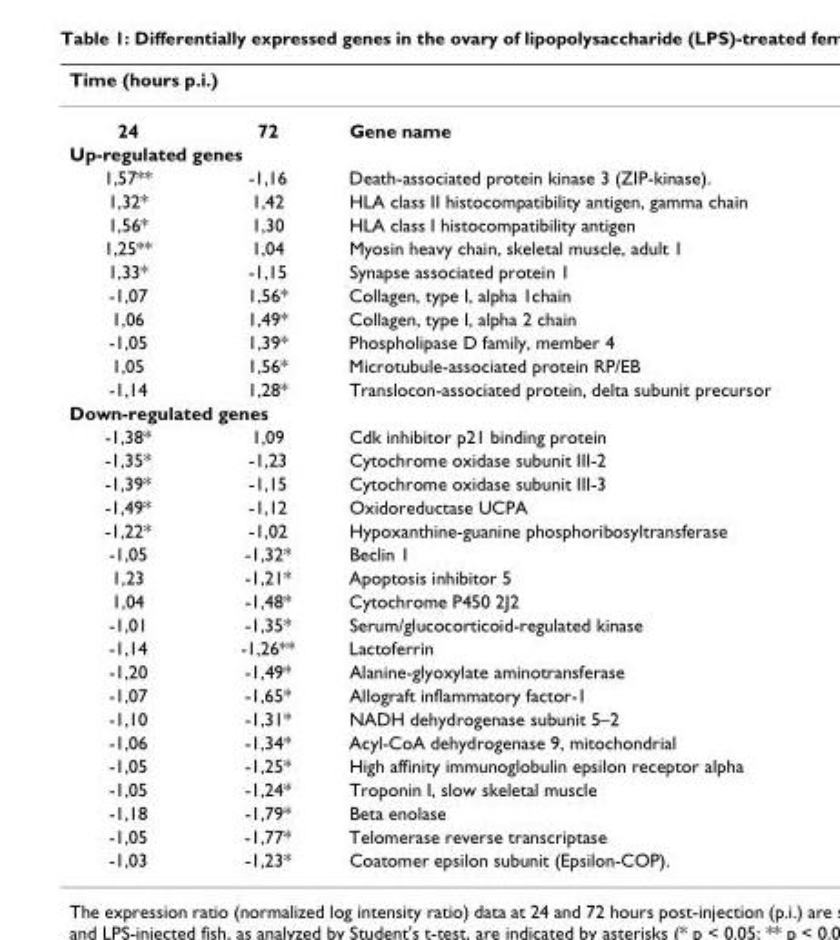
<table><thead><tr><td colspan="3">Time (hours p.i.)</td></tr><tr><td>24</td><td>72</td><td>Gene name</td></tr></thead><tbody><tr><td colspan="3">Up-regulated genes</td></tr><tr><td>1,57**</td><td>-1,16</td><td>Death-associated protein kinase 3 (ZIP-kinase).</td></tr><tr><td>1,32*</td><td>1,42</td><td>HLA class II histocompatibility antigen, gamma chain</td></tr><tr><td>1,56*</td><td>1,30</td><td>HLA class I histocompatibility antigen</td></tr><tr><td>1,25**</td><td>1,04</td><td>Myosin heavy chain, skeletal muscle, adult 1</td></tr><tr><td>1,33*</td><td>-1,15</td><td>Synapse associated protein 1</td></tr><tr><td>-1,07</td><td>1,56*</td><td>Collagen, type I, alpha 1chain</td></tr><tr><td>1,06</td><td>1,49*</td><td>Collagen, type I, alpha 2 chain</td></tr><tr><td>-1,05</td><td>1,39*</td><td>Phospholipase D family, member 4</td></tr><tr><td>1,05</td><td>1,56*</td><td>Microtubule-associated protein RP/EB</td></tr><tr><td>-1,14</td><td>1,28*</td><td>Translocon-associated protein, delta subunit precursor</td></tr><tr><td colspan="3">Down-regulated genes</td></tr><tr><td>-1,38*</td><td>1,09</td><td>Cdk inhibitor p21 binding protein</td></tr><tr><td>-1,35*</td><td>-1,23</td><td>Cytochrome oxidase subunit III-2</td></tr><tr><td>-1,39*</td><td>-1,15</td><td>Cytochrome oxidase subunit III-3</td></tr><tr><td>-1,49*</td><td>-1,12</td><td>Oxidoreductase UCPA</td></tr><tr><td>-1,22*</td><td>-1,02</td><td>Hypoxanthine-guanine phosphoribosyltransferase</td></tr><tr><td>-1,05</td><td>-1,32*</td><td>Beclin 1</td></tr><tr><td>1,23</td><td>-1,21*</td><td>Apoptosis inhibitor 5</td></tr><tr><td>1,04</td><td>-1,48*</td><td>Cytochrome P450 2J2</td></tr><tr><td>-1,01</td><td>-1,35*</td><td>Serum/glucocorticoid-regulated kinase</td></tr><tr><td>-1,14</td><td>-1,26**</td><td>Lactoferrin</td></tr><tr><td>-1,20</td><td>-1,49*</td><td>Alanine-glyoxylate aminotransferase</td></tr><tr><td>-1,07</td><td>-1,65*</td><td>Allograft inflammatory factor-1</td></tr><tr><td>-1,10</td><td>-1,31*</td><td>NADH dehydrogenase subunit 5–2</td></tr><tr><td>-1,06</td><td>-1,34*</td><td>Acyl-CoA dehydrogenase 9, mitochondrial</td></tr><tr><td>-1,05</td><td>-1,25*</td><td>High affinity immunoglobulin epsilon receptor alpha</td></tr><tr><td>-1,05</td><td>-1,24*</td><td>Troponin I, slow skeletal muscle</td></tr><tr><td>-1,18</td><td>-1,79*</td><td>Beta enolase</td></tr><tr><td>-1,05</td><td>-1,77*</td><td>Telomerase reverse transcriptase</td></tr><tr><td>-1,03</td><td>-1,23*</td><td>Coatomer epsilon subunit (Epsilon-COP).</td></tr></tbody></table>